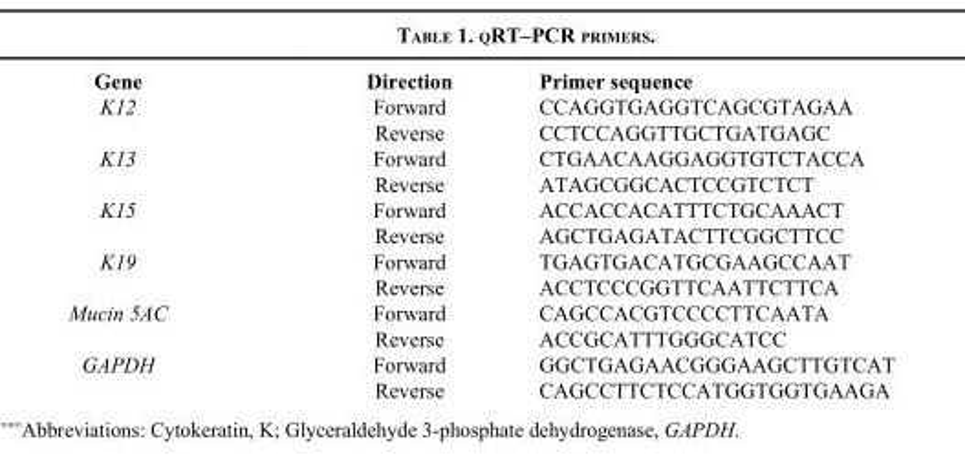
<table><thead><tr><td>Gene</td><td>Direction</td><td>Primer sequence</td></tr></thead><tbody><tr><td rowspan="2">K12</td><td>Forward</td><td>CCAGGTGAGGTCAGCGTAGAA</td></tr><tr><td>Reverse</td><td>CCTCCAGGTTGCTGATGAGC</td></tr><tr><td rowspan="2">K13</td><td>Forward</td><td>CTGAACAAGGAGGTGTCTACCA</td></tr><tr><td>Reverse</td><td>ATAGCGGCACTCCGTCTCT</td></tr><tr><td rowspan="2">K15</td><td>Forward</td><td>ACCACCACATTTCTGCAAACT</td></tr><tr><td>Reverse</td><td>AGCTGAGATACTTCGGCTTCC</td></tr><tr><td rowspan="2">K19</td><td>Forward</td><td>TGAGTGACATGCGAAGCCAAT</td></tr><tr><td>Reverse</td><td>ACCTCCCGGTTCAATTCTTCA</td></tr><tr><td rowspan="2">Mucin 5AC</td><td>Forward</td><td>CAGCCACGTCCCCTTCAATA</td></tr><tr><td>Reverse</td><td>ACCGCATTTGGGCATCC</td></tr><tr><td rowspan="2">GAPDH</td><td>Forward</td><td>GGCTGAGAACGGGAAGCTTGTCAT</td></tr><tr><td>Reverse</td><td>CAGCCTTCTCCATGGTGGTGAAGA</td></tr></tbody></table>